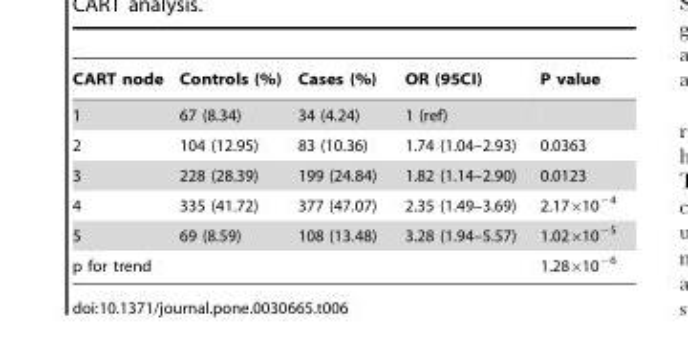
<table><thead><tr><td>CART node</td><td>Controls (%)</td><td>Cases (%)</td><td>OR (95CI)</td><td>P value</td></tr></thead><tbody><tr><td>1</td><td>67 (8.34)</td><td>34 (4.24)</td><td>1 (ref)</td><td></td></tr><tr><td>2</td><td>104 (12.95)</td><td>83 (10.36)</td><td>1.74 (1.04–2.93)</td><td>0.0363</td></tr><tr><td>3</td><td>228 (28.39)</td><td>199 (24.84)</td><td>1.82 (1.14–2.90)</td><td>0.0123</td></tr><tr><td>4</td><td>335 (41.72)</td><td>377 (47.07)</td><td>2.35 (1.49–3.69)</td><td>2.17×10<sup>−4</sup></td></tr><tr><td>5</td><td>69 (8.59)</td><td>108 (13.48)</td><td>3.28 (1.94–5.57)</td><td>1.02×10<sup>−5</sup></td></tr><tr><td>p for trend</td><td></td><td></td><td></td><td>1.28×10<sup>−6</sup></td></tr></tbody></table>